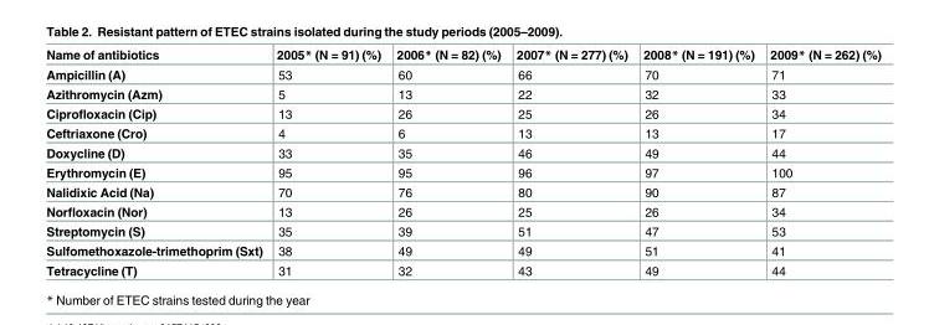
<table><thead><tr><td>Name of antibiotics</td><td>2005* (N = 91) (%)</td><td>2006* (N = 82) (%)</td><td>2007* (N = 277) (%)</td><td>2008* (N = 191) (%)</td><td>2009* (N = 262) (%)</td></tr></thead><tbody><tr><td>Ampicillin (A)</td><td>53</td><td>60</td><td>66</td><td>70</td><td>71</td></tr><tr><td>Azithromycin (Azm)</td><td>5</td><td>13</td><td>22</td><td>32</td><td>33</td></tr><tr><td>Ciprofloxacin (Cip)</td><td>13</td><td>26</td><td>25</td><td>26</td><td>34</td></tr><tr><td>Ceftriaxone (Cro)</td><td>4</td><td>6</td><td>13</td><td>13</td><td>17</td></tr><tr><td>Doxycline (D)</td><td>33</td><td>35</td><td>46</td><td>49</td><td>44</td></tr><tr><td>Erythromycin (E)</td><td>95</td><td>95</td><td>96</td><td>97</td><td>100</td></tr><tr><td>Nalidixic Acid (Na)</td><td>70</td><td>76</td><td>80</td><td>90</td><td>87</td></tr><tr><td>Norfloxacin (Nor)</td><td>13</td><td>26</td><td>25</td><td>26</td><td>34</td></tr><tr><td>Streptomycin (S)</td><td>35</td><td>39</td><td>51</td><td>47</td><td>53</td></tr><tr><td>Sulfomethoxazole-trimethoprim (Sxt)</td><td>38</td><td>49</td><td>49</td><td>51</td><td>41</td></tr><tr><td>Tetracycline (T)</td><td>31</td><td>32</td><td>43</td><td>49</td><td>44</td></tr></tbody></table>